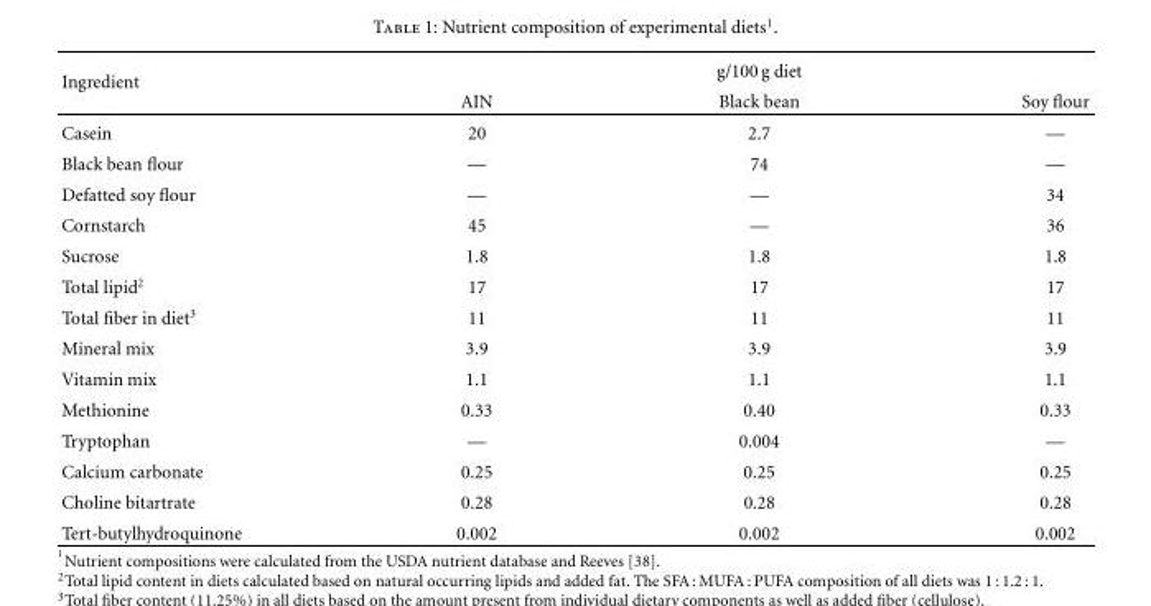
<table><thead><tr><td rowspan="2">Ingredient</td><td colspan="3">g/100 g diet</td></tr><tr><td>AIN</td><td>Black bean</td><td>Soy flour</td></tr></thead><tbody><tr><td>Casein</td><td>20</td><td>2.7</td><td>—</td></tr><tr><td>Black bean flour</td><td>—</td><td>74</td><td>—</td></tr><tr><td>Defatted soy flour</td><td>—</td><td>—</td><td>34</td></tr><tr><td>Cornstarch</td><td>45</td><td>—</td><td>36</td></tr><tr><td>Sucrose</td><td>1.8</td><td>1.8</td><td>1.8</td></tr><tr><td>Total lipid<sup>2</sup></td><td>17</td><td>17</td><td>17</td></tr><tr><td>Total fiber in diet<sup>3</sup></td><td>11</td><td>11</td><td>11</td></tr><tr><td>Mineral mix</td><td>3.9</td><td>3.9</td><td>3.9</td></tr><tr><td>Vitamin mix</td><td>1.1</td><td>1.1</td><td>1.1</td></tr><tr><td>Methionine</td><td>0.33</td><td>0.40</td><td>0.33</td></tr><tr><td>Tryptophan</td><td>—</td><td>0.004</td><td>—</td></tr><tr><td>Calcium carbonate</td><td>0.25</td><td>0.25</td><td>0.25</td></tr><tr><td>Choline bitartrate</td><td>0.28</td><td>0.28</td><td>0.28</td></tr><tr><td>Tert-butylhydroquinone</td><td>0.002</td><td>0.002</td><td>0.002</td></tr></tbody></table>